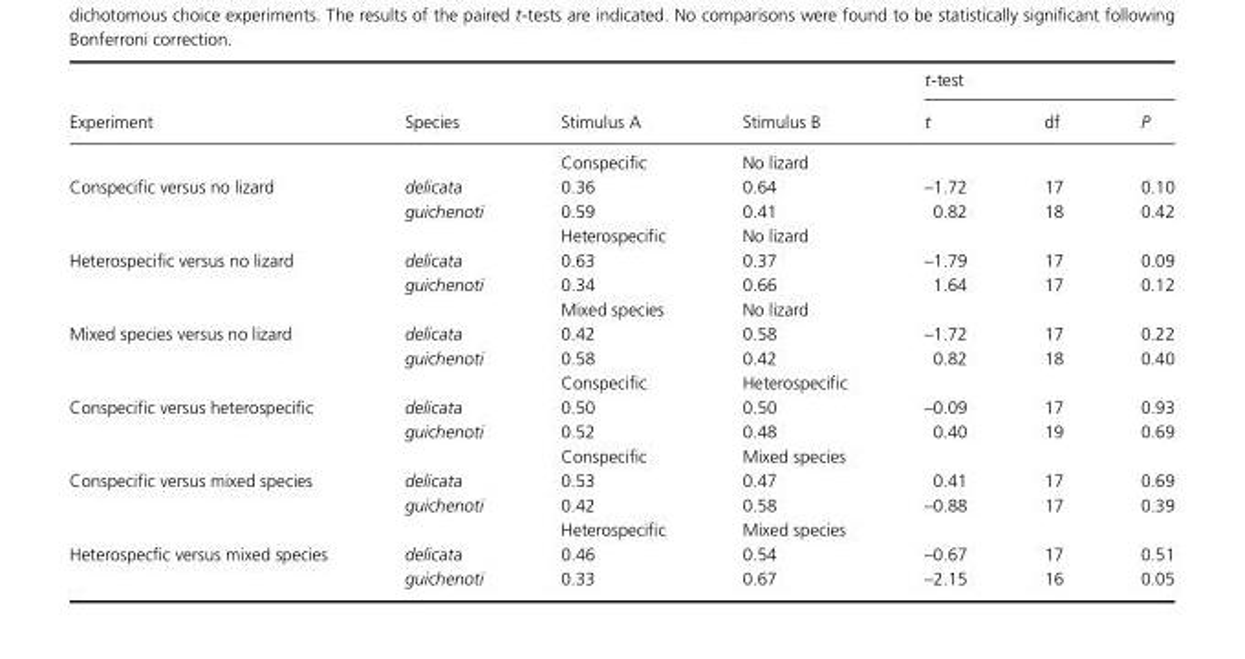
<table><thead><tr><td rowspan="2">Experiment</td><td rowspan="2">Species</td><td rowspan="2">Stimulus A</td><td rowspan="2">Stimulus B</td><td colspan="3">t-test</td></tr><tr><td>t</td><td>df</td><td>P</td></tr></thead><tbody><tr><td></td><td></td><td>Conspecific</td><td>No lizard</td><td></td><td></td><td></td></tr><tr><td rowspan="3">Conspecific versus no lizard</td><td>delicata</td><td>0.36</td><td>0.64</td><td>–1.72</td><td>17</td><td>0.10</td></tr><tr><td>guichenoti</td><td>0.59</td><td>0.41</td><td>0.82</td><td>18</td><td>0.42</td></tr><tr><td></td><td>Heterospecific</td><td>No lizard</td><td></td><td></td><td></td></tr><tr><td rowspan="3">Heterospecific versus no lizard</td><td>delicata</td><td>0.63</td><td>0.37</td><td>–1.79</td><td>17</td><td>0.09</td></tr><tr><td>guichenoti</td><td>0.34</td><td>0.66</td><td>1.64</td><td>17</td><td>0.12</td></tr><tr><td></td><td>Mixed species</td><td>No lizard</td><td></td><td></td><td></td></tr><tr><td rowspan="3">Mixed species versus no lizard</td><td>delicata</td><td>0.42</td><td>0.58</td><td>–1.72</td><td>17</td><td>0.22</td></tr><tr><td>guichenoti</td><td>0.58</td><td>0.42</td><td>0.82</td><td>18</td><td>0.40</td></tr><tr><td></td><td>Conspecific</td><td>Heterospecific</td><td></td><td></td><td></td></tr><tr><td rowspan="3">Conspecific versus heterospecific</td><td>delicata</td><td>0.50</td><td>0.50</td><td>–0.09</td><td>17</td><td>0.93</td></tr><tr><td>guichenoti</td><td>0.52</td><td>0.48</td><td>0.40</td><td>19</td><td>0.69</td></tr><tr><td></td><td>Conspecific</td><td>Mixed species</td><td></td><td></td><td></td></tr><tr><td rowspan="3">Conspecific versus mixed species</td><td>delicata</td><td>0.53</td><td>0.47</td><td>0.41</td><td>17</td><td>0.69</td></tr><tr><td>guichenoti</td><td>0.42</td><td>0.58</td><td>–0.88</td><td>17</td><td>0.39</td></tr><tr><td></td><td>Heterospecific</td><td>Mixed species</td><td></td><td></td><td></td></tr><tr><td rowspan="2">Heterospecfic versus mixed species</td><td>delicata</td><td>0.46</td><td>0.54</td><td>–0.67</td><td>17</td><td>0.51</td></tr><tr><td>guichenoti</td><td>0.33</td><td>0.67</td><td>–2.15</td><td>16</td><td>0.05</td></tr></tbody></table>